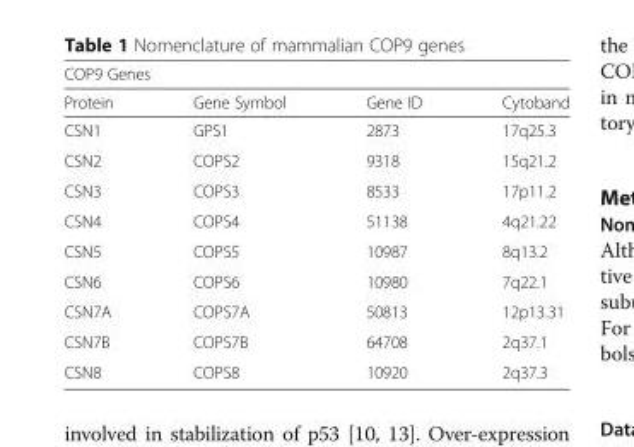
<table><thead><tr><td colspan="4">COP9 Genes</td></tr><tr><td>Protein</td><td>Gene Symbol</td><td>Gene ID</td><td>Cytoband</td></tr></thead><tbody><tr><td>CSN1</td><td>GPS1</td><td>2873</td><td>17q25.3</td></tr><tr><td>CSN2</td><td>COPS2</td><td>9318</td><td>15q21.2</td></tr><tr><td>CSN3</td><td>COPS3</td><td>8533</td><td>17p11.2</td></tr><tr><td>CSN4</td><td>COPS4</td><td>51138</td><td>4q21.22</td></tr><tr><td>CSN5</td><td>COPS5</td><td>10987</td><td>8q13.2</td></tr><tr><td>CSN6</td><td>COPS6</td><td>10980</td><td>7q22.1</td></tr><tr><td>CSN7A</td><td>COPS7A</td><td>50813</td><td>12p13.31</td></tr><tr><td>CSN7B</td><td>COPS7B</td><td>64708</td><td>2q37.1</td></tr><tr><td>CSN8</td><td>COPS8</td><td>10920</td><td>2q37.3</td></tr></tbody></table>